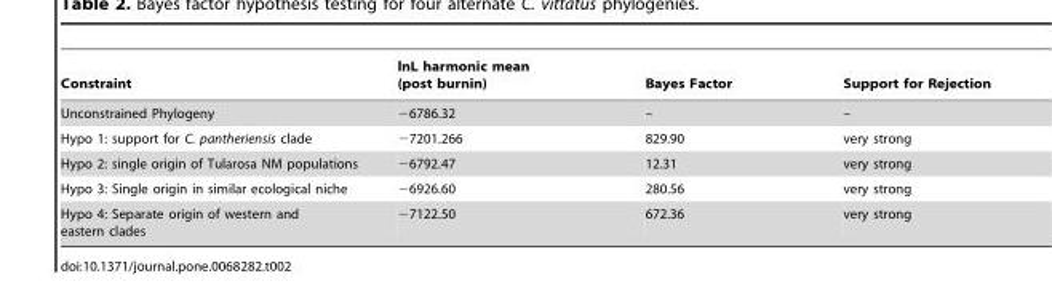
<table><thead><tr><td>Constraint</td><td>lnL harmonic mean (post burnin)</td><td>Bayes Factor</td><td>Support for Rejection</td></tr></thead><tbody><tr><td>Unconstrained Phylogeny</td><td>−6786.32</td><td>–</td><td>–</td></tr><tr><td>Hypo 1: support for C. pantheriensis clade</td><td>−7201.266</td><td>829.90</td><td>very strong</td></tr><tr><td>Hypo 2: single origin of Tularosa NM populations</td><td>−6792.47</td><td>12.31</td><td>very strong</td></tr><tr><td>Hypo 3: Single origin in similar ecological niche</td><td>−6926.60</td><td>280.56</td><td>very strong</td></tr><tr><td>Hypo 4: Separate origin of western and eastern clades</td><td>−7122.50</td><td>672.36</td><td>very strong</td></tr></tbody></table>